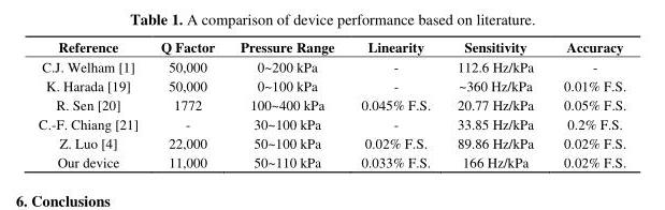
<table><thead><tr><td>Reference</td><td>Q Factor</td><td>Pressure Range</td><td>Linearity</td><td>Sensitivity</td><td>Accuracy</td></tr></thead><tbody><tr><td>C.J. Welham [1]</td><td>50,000</td><td>0~200 kPa</td><td>-</td><td>112.6 Hz/kPa</td><td>-</td></tr><tr><td>K. Harada [19]</td><td>50,000</td><td>0~100 kPa</td><td>-</td><td>~360 Hz/kPa</td><td>0.01% F.S.</td></tr><tr><td>R. Sen [20]</td><td>1772</td><td>100~400 kPa</td><td>0.045% F.S.</td><td>20.77 Hz/kPa</td><td>0.05% F.S.</td></tr><tr><td>C.-F. Chiang [21]</td><td>-</td><td>30~100 kPa</td><td>-</td><td>33.85 Hz/kPa</td><td>0.2% F.S.</td></tr><tr><td>Z. Luo [4]</td><td>22,000</td><td>50~100 kPa</td><td>0.02% F.S.</td><td>89.86 Hz/kPa</td><td>0.02% F.S.</td></tr><tr><td>Our device</td><td>11,000</td><td>50~110 kPa</td><td>0.033% F.S.</td><td>166 Hz/kPa</td><td>0.02% F.S.</td></tr></tbody></table>